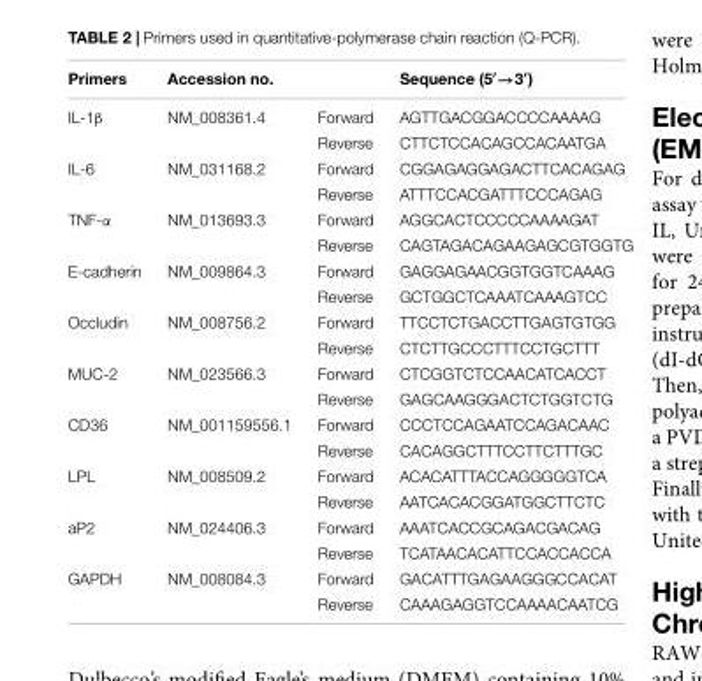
<table><thead><tr><td>Primers</td><td>Accession no.</td><td></td><td>Sequence (5′→3′)</td></tr></thead><tbody><tr><td rowspan="2">IL-1β</td><td>NM_008361.4</td><td>Forward</td><td>AGTTGACGGACCCCAAAAG</td></tr><tr><td></td><td>Reverse</td><td>CTTCTCCACAGCCACAATGA</td></tr><tr><td rowspan="2">IL-6</td><td>NM_031168.2</td><td>Forward</td><td>CGGAGAGGAGACTTCACAGAG</td></tr><tr><td></td><td>Reverse</td><td>ATTTCCACGATTTCCCAGAG</td></tr><tr><td rowspan="2">TNF-α</td><td>NM_013693.3</td><td>Forward</td><td>AGGCACTCCCCCAAAAGAT</td></tr><tr><td></td><td>Reverse</td><td>CAGTAGACAGAAGAGCGTGGTG</td></tr><tr><td rowspan="2">E-cadherin</td><td>NM_009864.3</td><td>Forward</td><td>GAGGAGAACGGTGGTCAAAG</td></tr><tr><td></td><td>Reverse</td><td>GCTGGCTCAAATCAAAGTCC</td></tr><tr><td rowspan="2">Occludin</td><td>NM_008756.2</td><td>Forward</td><td>TTCCTCTGACCTTGAGTGTGG</td></tr><tr><td></td><td>Reverse</td><td>CTCTTGCCCTTTCCTGCTTT</td></tr><tr><td rowspan="2">MUC-2</td><td>NM_023566.3</td><td>Forward</td><td>CTCGGTCTCCAACATCACCT</td></tr><tr><td></td><td>Reverse</td><td>GAGCAAGGGACTCTGGTCTG</td></tr><tr><td rowspan="2">CD36</td><td>NM_001159556.1</td><td>Forward</td><td>CCCTCCAGAATCCAGACAAC</td></tr><tr><td></td><td>Reverse</td><td>CACAGGCTTTCCTTCTTTGC</td></tr><tr><td rowspan="2">LPL</td><td>NM_008509.2</td><td>Forward</td><td>ACACATTTACCAGGGGGTCA</td></tr><tr><td></td><td>Reverse</td><td>AATCACACGGATGGCTTCTC</td></tr><tr><td rowspan="2">aP2</td><td>NM_024406.3</td><td>Forward</td><td>AAATCACCGCAGACGACAG</td></tr><tr><td></td><td>Reverse</td><td>TCATAACACATTCCACCACCA</td></tr><tr><td rowspan="2">GAPDH</td><td>NM_008084.3</td><td>Forward</td><td>GACATTTGAGAAGGGCCACAT</td></tr><tr><td></td><td>Reverse</td><td>CAAAGAGGTCCAAAACAATCG</td></tr></tbody></table>